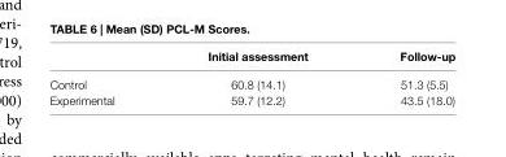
<table><thead><tr><td></td><td>initial assessment</td><td>Follow-up</td></tr></thead><tbody><tr><td>Control</td><td>60.8 (14.1)</td><td>51.3 (5.5)</td></tr><tr><td>Experimental</td><td>59.7 (12.2)</td><td>43.5 (18.0)</td></tr></tbody></table>